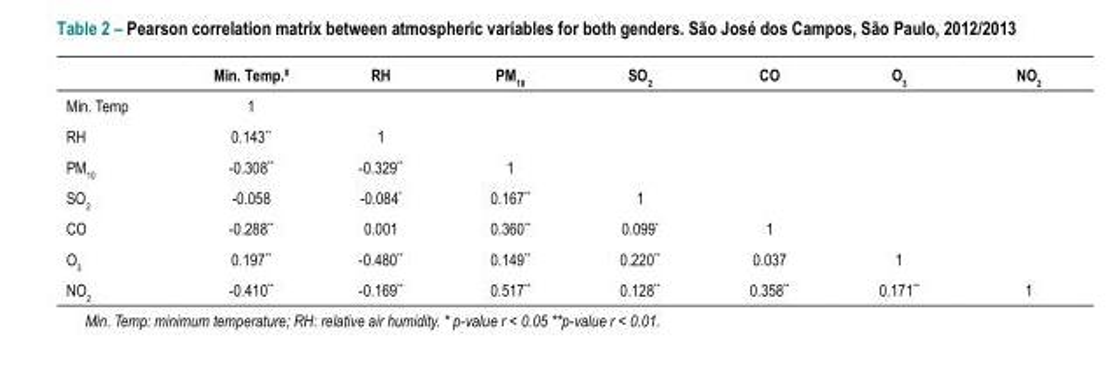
<table><thead><tr><td></td><td>Min. Temp.#</td><td>RH</td><td>PM<sub>10</sub></td><td>SO<sub>2</sub></td><td>CO</td><td>O<sub>3</sub></td><td>NO<sub>2</sub></td></tr></thead><tbody><tr><td>Min. Temp</td><td>1</td><td></td><td></td><td></td><td></td><td></td><td></td></tr><tr><td>RH</td><td>0.143**</td><td>1</td><td></td><td></td><td></td><td></td><td></td></tr><tr><td>PM<sub>10</sub></td><td>-0.308**</td><td>-0.329**</td><td>1</td><td></td><td></td><td></td><td></td></tr><tr><td>SO<sub>2</sub></td><td>-0.058</td><td>-0.084*</td><td>0.167**</td><td>1</td><td></td><td></td><td></td></tr><tr><td>CO</td><td>-0.288**</td><td>0.001</td><td>0.360**</td><td>0.099*</td><td>1</td><td></td><td></td></tr><tr><td>O<sub>3</sub></td><td>0.197**</td><td>-0.480**</td><td>0.149**</td><td>0.220**</td><td>0.037</td><td>1</td><td></td></tr><tr><td>NO<sub>2</sub></td><td>-0.410**</td><td>-0.169**</td><td>0.517**</td><td>0.128**</td><td>0.358**</td><td>0.171**</td><td>1</td></tr></tbody></table>